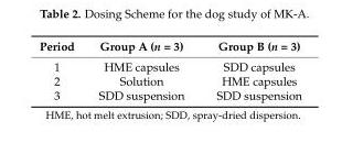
<table><thead><tr><td>Period</td><td>Group A (n = 3)</td><td>Group B (n = 3)</td></tr></thead><tbody><tr><td>1</td><td>HME capsules</td><td>SDD capsules</td></tr><tr><td>2</td><td>Solution</td><td>HME capsules</td></tr><tr><td>3</td><td>SDD suspension</td><td>SDD suspension</td></tr></tbody></table>